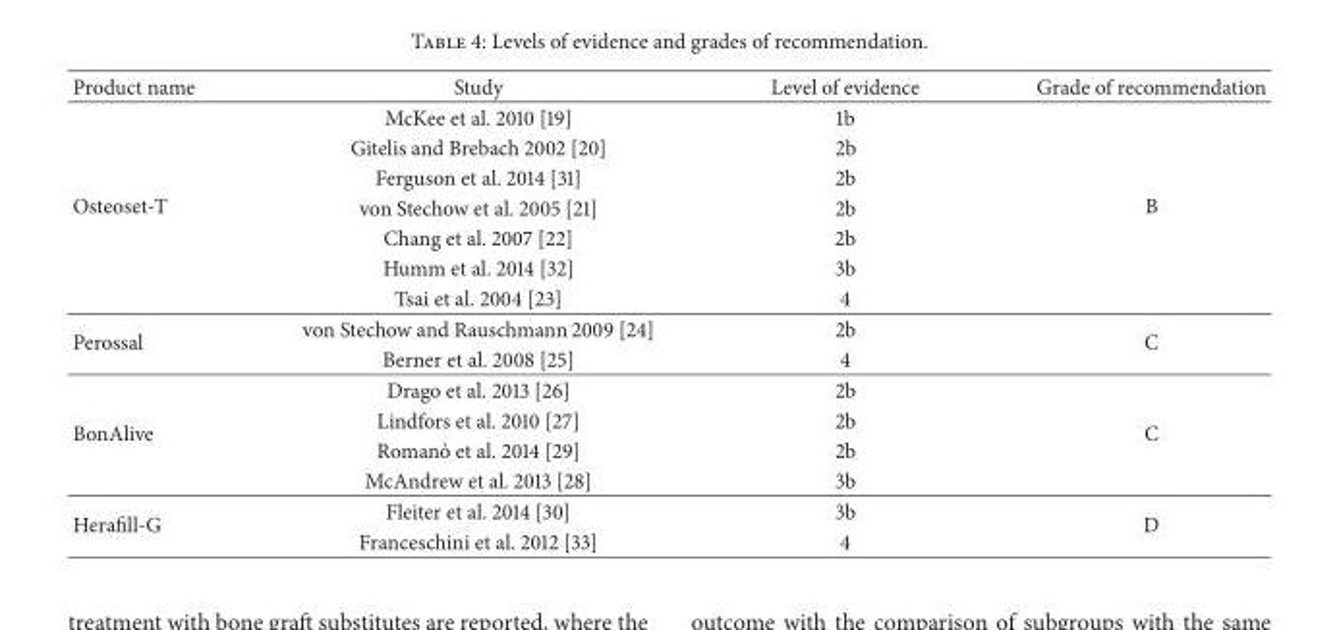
<table><thead><tr><td>Product name</td><td>Study</td><td>Level of evidence</td><td>Grade of recommendation</td></tr></thead><tbody><tr><td rowspan="7">Osteoset-T</td><td>McKee et al. 2010 [19]</td><td>1b</td><td rowspan="7">B</td></tr><tr><td>Gitelis and Brebach 2002 [20]</td><td>2b</td></tr><tr><td>Ferguson et al. 2014 [31]</td><td>2b</td></tr><tr><td>von Stechow et al. 2005 [21]</td><td>2b</td></tr><tr><td>Chang et al. 2007 [22]</td><td>2b</td></tr><tr><td>Humm et al. 2014 [32]</td><td>3b</td></tr><tr><td>Tsai et al. 2004 [23]</td><td>4</td></tr><tr><td rowspan="2">Perossal</td><td>von Stechow and Rauschmann 2009 [24]</td><td>2b</td><td rowspan="2">C</td></tr><tr><td>Berner et al. 2008 [25]</td><td>4</td></tr><tr><td rowspan="4">BonAlive</td><td>Drago et al. 2013 [26]</td><td>2b</td><td rowspan="4">C</td></tr><tr><td>Lindfors et al. 2010 [27]</td><td>2b</td></tr><tr><td>Roman`o et al. 2014 [29]</td><td>2b</td></tr><tr><td>McAndrew et al. 2013 [28]</td><td>3b</td></tr><tr><td rowspan="2">Herafill-G</td><td>Fleiter et al. 2014 [30]</td><td>3b</td><td rowspan="2">D</td></tr><tr><td>Franceschini et al. 2012 [33]</td><td>4</td></tr></tbody></table>